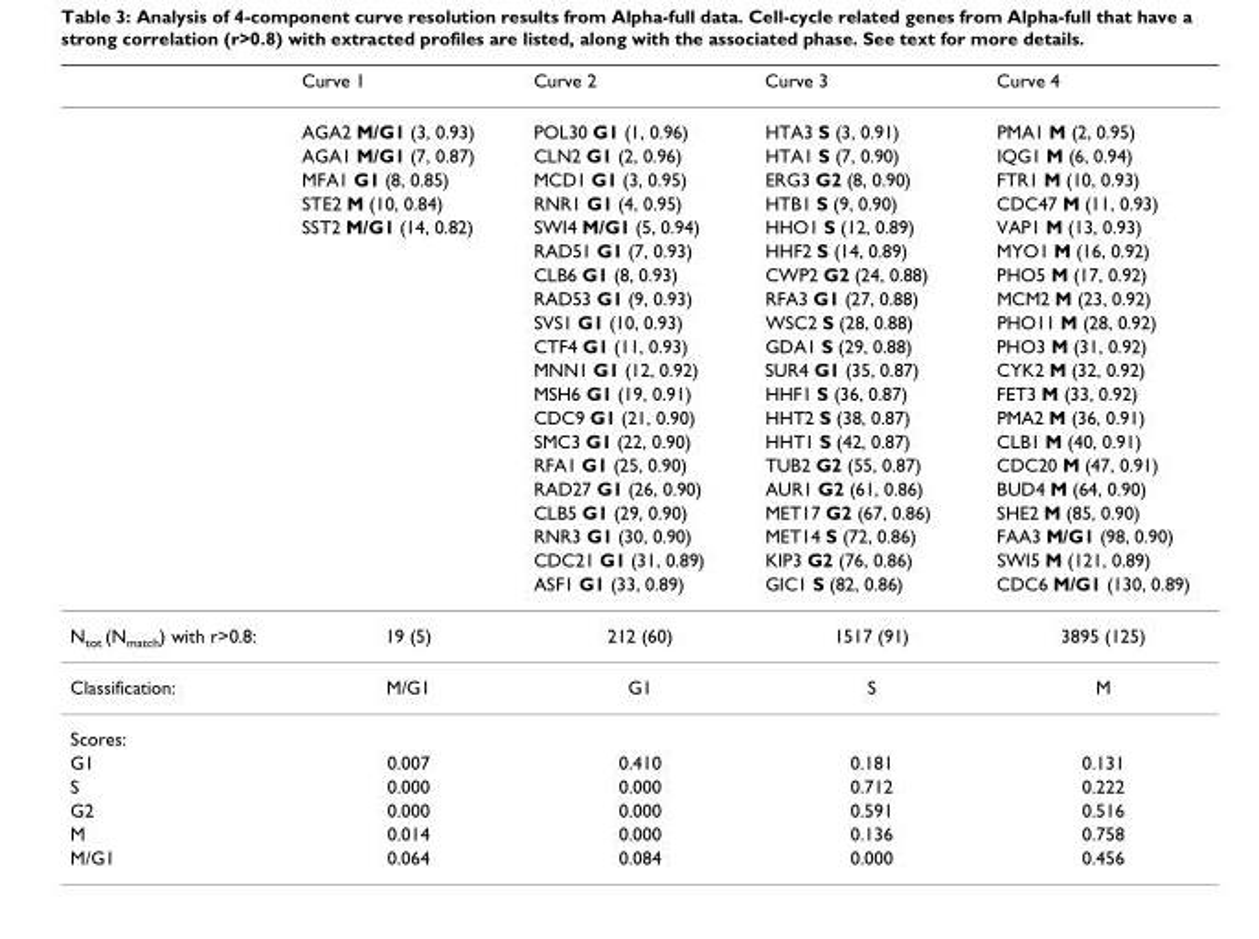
<table><thead><tr><td></td><td>Curve 1</td><td>Curve 2</td><td>Curve 3</td><td>Curve 4</td></tr></thead><tbody><tr><td></td><td>AGA2 M/G1 (3, 0.93)</td><td>POL30 G1 (1, 0.96)</td><td>HTA3 S (3, 0.91)</td><td>PMA1 M (2, 0.95)</td></tr><tr><td></td><td>AGA1 M/G1 (7, 0.87)</td><td>CLN2 G1 (2, 0.96)</td><td>HTA1 S (7, 0.90)</td><td>IQG1 M (6, 0.94)</td></tr><tr><td></td><td>MFA1 G1 (8, 0.85)</td><td>MCD1 G1 (3, 0.95)</td><td>ERG3 G2 (8, 0.90)</td><td>FTR1 M (10, 0.93)</td></tr><tr><td></td><td>STE2 M (10, 0.84)</td><td>RNR1 G1 (4, 0.95)</td><td>HTB1 S (9, 0.90)</td><td>CDC47 M (11, 0.93)</td></tr><tr><td></td><td>SST2 M/G1 (14, 0.82)</td><td>SWI4 M/G1 (5, 0.94)</td><td>HHO1 S (12, 0.89)</td><td>VAP1 M (13, 0.93)</td></tr><tr><td></td><td></td><td>RAD51 G1 (7, 0.93)</td><td>HHF2 S (14, 0.89)</td><td>MYO1 M (16, 0.92)</td></tr><tr><td></td><td></td><td>CLB6 G1 (8, 0.93)</td><td>CWP2 G2 (24, 0.88)</td><td>PHO5 M (17, 0.92)</td></tr><tr><td></td><td></td><td>RAD53 G1 (9, 0.93)</td><td>RFA3 G1 (27, 0.88)</td><td>MCM2 M (23, 0.92)</td></tr><tr><td></td><td></td><td>SVS1 G1 (10, 0.93)</td><td>WSC2 S (28, 0.88)</td><td>PHO11 M (28, 0.92)</td></tr><tr><td></td><td></td><td>CTF4 G1 (11, 0.93)</td><td>GDA1 S (29, 0.88)</td><td>PHO3 M (31, 0.92)</td></tr><tr><td></td><td></td><td>MNN1 G1 (12, 0.92)</td><td>SUR4 G1 (35, 0.87)</td><td>CYK2 M (32, 0.92)</td></tr><tr><td></td><td></td><td>MSH6 G1 (19, 0.91)</td><td>HHF1 S (36, 0.87)</td><td>FET3 M (33, 0.92)</td></tr><tr><td></td><td></td><td>CDC9 G1 (21, 0.90)</td><td>HHT2 S (38, 0.87)</td><td>PMA2 M (36, 0.91)</td></tr><tr><td></td><td></td><td>SMC3 G1 (22, 0.90)</td><td>HHT1 S (42, 0.87)</td><td>CLB1 M (40, 0.91)</td></tr><tr><td></td><td></td><td>RFA1 G1 (25, 0.90)</td><td>TUB2 G2 (55, 0.87)</td><td>CDC20 M (47, 0.91)</td></tr><tr><td></td><td></td><td>RAD27 G1 (26, 0.90)</td><td>AUR1 G2 (61, 0.86)</td><td>BUD4 M (64, 0.90)</td></tr><tr><td></td><td></td><td>CLB5 G1 (29, 0.90)</td><td>MET17 G2 (67, 0.86)</td><td>SHE2 M (85, 0.90)</td></tr><tr><td></td><td></td><td>RNR3 G1 (30, 0.90)</td><td>MET14 S (72, 0.86)</td><td>FAA3 M/G1 (98, 0.90)</td></tr><tr><td></td><td></td><td>CDC21 G1 (31, 0.89)</td><td>KIP3 G2 (76, 0.86)</td><td>SWI5 M (121, 0.89)</td></tr><tr><td></td><td></td><td>ASF1 G1 (33, 0.89)</td><td>GIC1 S (82, 0.86)</td><td>CDC6 M/G1 (130, 0.89)</td></tr><tr><td>Ntot (Nmatch) with r&gt;0.8:</td><td>19 (5)</td><td>212 (60)</td><td>1517 (91)</td><td>3895 (125)</td></tr><tr><td>Classification:</td><td>M/G1</td><td>G1</td><td>S</td><td>M</td></tr><tr><td colspan="5">Scores:</td></tr><tr><td>G1</td><td>0.007</td><td>0.410</td><td>0.181</td><td>0.131</td></tr><tr><td>S</td><td>0.000</td><td>0.000</td><td>0.712</td><td>0.222</td></tr><tr><td>G2</td><td>0.000</td><td>0.000</td><td>0.591</td><td>0.516</td></tr><tr><td>M</td><td>0.014</td><td>0.000</td><td>0.136</td><td>0.758</td></tr><tr><td>M/G1</td><td>0.064</td><td>0.084</td><td>0.000</td><td>0.456</td></tr></tbody></table>